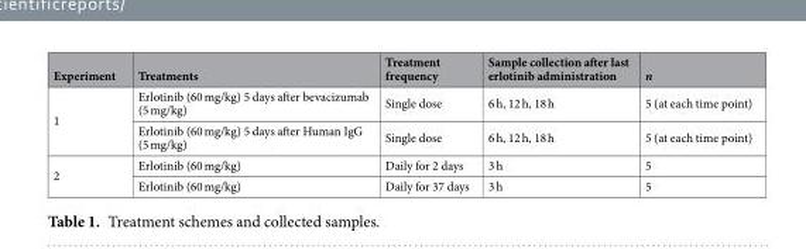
<table><thead><tr><td>Experiment</td><td>Treatments</td><td>Treatment frequency</td><td>Sample collection after last erlotinib administration</td><td>n</td></tr></thead><tbody><tr><td rowspan="2">1</td><td>Erlotinib (60 mg/kg) 5 days after bevacizumab (5 mg/kg)</td><td>Single dose</td><td>6 h, 12 h, 18 h</td><td>5 (at each time point)</td></tr><tr><td>Erlotinib (60 mg/kg) 5 days after Human IgG (5 mg/kg)</td><td>Single dose</td><td>6 h, 12 h, 18 h</td><td>5 (at each time point)</td></tr><tr><td rowspan="2">2</td><td>Erlotinib (60 mg/kg)</td><td>Daily for 2 days</td><td>3 h</td><td>5</td></tr><tr><td>Erlotinib (60 mg/kg)</td><td>Daily for 37 days</td><td>3 h</td><td>5</td></tr></tbody></table>